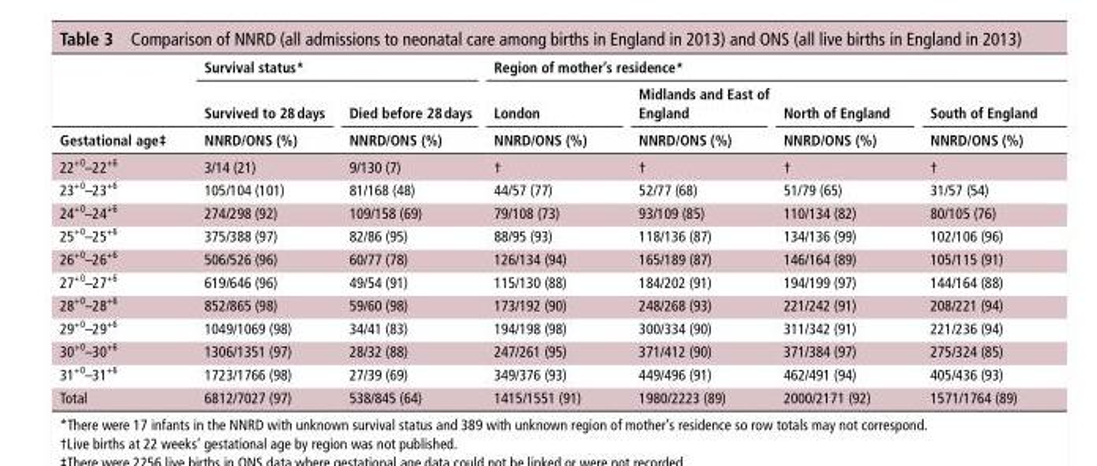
<table><thead><tr><td rowspan="3">Gestational age‡</td><td colspan="2">survival status*</td><td colspan="4">region of mother’s residence*</td></tr><tr><td rowspan="2">survived to 28 days nnrd/Ons (%)</td><td rowspan="2">died before 28 days nnrd/Ons (%)</td><td rowspan="2">london nnrd/Ons (%)</td><td rowspan="2">Midlands and east of england nnrd/Ons (%)</td><td rowspan="2">north of england nnrd/Ons (%)</td><td rowspan="2">south of england nnrd/Ons (%)</td></tr><tr></tr></thead><tbody><tr><td>22<sup>+0</sup>–22<sup>+6</sup></td><td>3/14 (21)</td><td>9/130 (7)</td><td>†</td><td>†</td><td>†</td><td>†</td></tr><tr><td>23<sup>+0</sup>–23<sup>+6</sup></td><td>105/104 (101)</td><td>81/168 (48)</td><td>44/57 (77)</td><td>52/77 (68)</td><td>51/79 (65)</td><td>31/57 (54)</td></tr><tr><td>24<sup>+0</sup>–24<sup>+6</sup></td><td>274/298 (92)</td><td>109/158 (69)</td><td>79/108 (73)</td><td>93/109 (85)</td><td>110/134 (82)</td><td>80/105 (76)</td></tr><tr><td>25<sup>+0</sup>–25<sup>+6</sup></td><td>375/388 (97)</td><td>82/86 (95)</td><td>88/95 (93)</td><td>118/136 (87)</td><td>134/136 (99)</td><td>102/106 (96)</td></tr><tr><td>26<sup>+0</sup>–26<sup>+6</sup></td><td>506/526 (96)</td><td>60/77 (78)</td><td>126/134 (94)</td><td>165/189 (87)</td><td>146/164 (89)</td><td>105/115 (91)</td></tr><tr><td>27<sup>+0</sup>–27<sup>+6</sup></td><td>619/646 (96)</td><td>49/54 (91)</td><td>115/130 (88)</td><td>184/202 (91)</td><td>194/199 (97)</td><td>144/164 (88)</td></tr><tr><td>28<sup>+0</sup>–28<sup>+6</sup></td><td>852/865 (98)</td><td>59/60 (98)</td><td>173/192 (90)</td><td>248/268 (93)</td><td>221/242 (91)</td><td>208/221 (94)</td></tr><tr><td>29<sup>+0</sup>–29<sup>+6</sup></td><td>1049/1069 (98)</td><td>34/41 (83)</td><td>194/198 (98)</td><td>300/334 (90)</td><td>311/342 (91)</td><td>221/236 (94)</td></tr><tr><td>30<sup>+0</sup>–30<sup>+6</sup></td><td>1306/1351 (97)</td><td>28/32 (88)</td><td>247/261 (95)</td><td>371/412 (90)</td><td>371/384 (97)</td><td>275/324 (85)</td></tr><tr><td>31<sup>+0</sup>–31<sup>+6</sup></td><td>1723/1766 (98)</td><td>27/39 (69)</td><td>349/376 (93)</td><td>449/496 (91)</td><td>462/491 (94)</td><td>405/436 (93)</td></tr><tr><td>Total</td><td>6812/7027 (97)</td><td>538/845 (64)</td><td>1415/1551 (91)</td><td>1980/2223 (89)</td><td>2000/2171 (92)</td><td>1571/1764 (89)</td></tr></tbody></table>